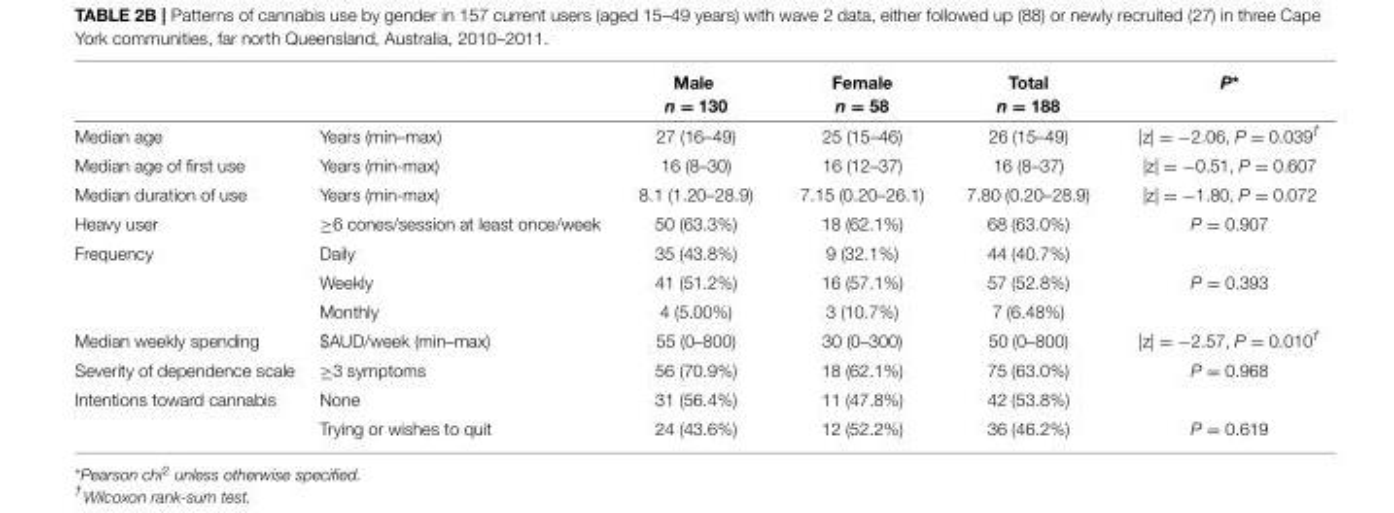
<table><thead><tr><td></td><td></td><td>Male n = 130</td><td>Female n = 58</td><td>Total n = 188</td><td>P*</td></tr></thead><tbody><tr><td>Median age</td><td>Years (min–max)</td><td>27 (16–49)</td><td>25 (15–46)</td><td>26 (15–49)</td><td>|z| = −2.06, P = 0.039<sup>†</sup></td></tr><tr><td>Median age of first use</td><td>Years (min-max)</td><td>16 (8–30)</td><td>16 (12–37)</td><td>16 (8–37)</td><td>|z| = −0.51, P = 0.607</td></tr><tr><td>Median duration of use</td><td>Years (min-max)</td><td>8.1 (1.20–28.9)</td><td>7.15 (0.20–26.1)</td><td>7.80 (0.20–28.9)</td><td>|z| = −1.80, P = 0.072</td></tr><tr><td>Heavy user</td><td>≥6 cones/session at least once/week</td><td>50 (63.3%)</td><td>18 (62.1%)</td><td>68 (63.0%)</td><td>P = 0.907</td></tr><tr><td rowspan="3">Frequency</td><td>Daily</td><td>35 (43.8%)</td><td>9 (32.1%)</td><td>44 (40.7%)</td><td></td></tr><tr><td>Weekly</td><td>41 (51.2%)</td><td>16 (57.1%)</td><td>57 (52.8%)</td><td>P = 0.393</td></tr><tr><td>Monthly</td><td>4 (5.00%)</td><td>3 (10.7%)</td><td>7 (6.48%)</td><td></td></tr><tr><td>Median weekly spending</td><td>$AUD/week (min–max)</td><td>55 (0–800)</td><td>30 (0–300)</td><td>50 (0–800)</td><td>|z| = −2.57, P = 0.010<sup>†</sup></td></tr><tr><td>Severity of dependence scale</td><td>≥3 symptoms</td><td>56 (70.9%)</td><td>18 (62.1%)</td><td>75 (63.0%)</td><td>P = 0.968</td></tr><tr><td rowspan="2">Intentions toward cannabis</td><td>None</td><td>31 (56.4%)</td><td>11 (47.8%)</td><td>42 (53.8%)</td><td></td></tr><tr><td>Trying or wishes to quit</td><td>24 (43.6%)</td><td>12 (52.2%)</td><td>36 (46.2%)</td><td>P = 0.619</td></tr></tbody></table>